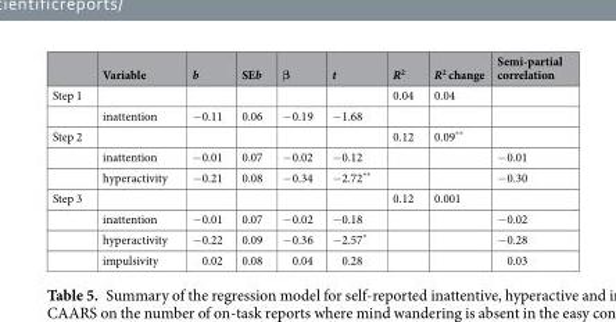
<table><thead><tr><td></td><td>Variable</td><td>b</td><td>SEb</td><td>β</td><td>t</td><td>R<sup>2</sup></td><td>R<sup>2</sup> change</td><td>Semi-partial correlation</td></tr></thead><tbody><tr><td rowspan="2">Step 1</td><td></td><td></td><td></td><td></td><td></td><td>0.04</td><td>0.04</td><td></td></tr><tr><td>inattention</td><td>−0.11</td><td>0.06</td><td>−0.19</td><td>−1.68</td><td></td><td></td><td></td></tr><tr><td rowspan="3">Step 2</td><td></td><td></td><td></td><td></td><td></td><td>0.12</td><td>0.09**</td><td></td></tr><tr><td>inattention</td><td>−0.01</td><td>0.07</td><td>−0.02</td><td>−0.12</td><td></td><td></td><td>−0.01</td></tr><tr><td>hyperactivity</td><td>−0.21</td><td>0.08</td><td>−0.34</td><td>−2.72**</td><td></td><td></td><td>−0.30</td></tr><tr><td rowspan="4">Step 3</td><td></td><td></td><td></td><td></td><td></td><td>0.12</td><td>0.001</td><td></td></tr><tr><td>inattention</td><td>−0.01</td><td>0.07</td><td>−0.02</td><td>−0.18</td><td></td><td></td><td>−0.02</td></tr><tr><td>hyperactivity</td><td>−0.22</td><td>0.09</td><td>−0.36</td><td>−2.57*</td><td></td><td></td><td>−0.28</td></tr><tr><td>impulsivity</td><td>0.02</td><td>0.08</td><td>0.04</td><td>0.28</td><td></td><td></td><td>0.03</td></tr></tbody></table>